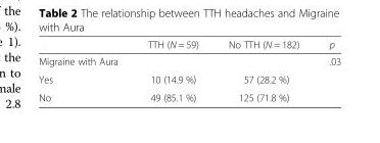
<table><thead><tr><td></td><td>TTH (N = 59)</td><td>No TTH (N = 182)</td><td>p</td></tr></thead><tbody><tr><td>Migraine with Aura</td><td></td><td></td><td>.03</td></tr><tr><td>Yes</td><td>10 (14.9 %)</td><td>57 (28.2 %)</td><td></td></tr><tr><td>No</td><td>49 (85.1 %)</td><td>125 (71.8 %)</td><td></td></tr></tbody></table>